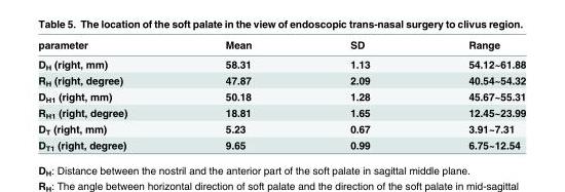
<table><thead><tr><td>parameter</td><td>Mean</td><td>SD</td><td>Range</td></tr></thead><tbody><tr><td>D<sub>H</sub> (right, mm)</td><td>58.31</td><td>1.13</td><td>54.12~61.88</td></tr><tr><td>R<sub>H</sub> (right, degree)</td><td>47.87</td><td>2.09</td><td>40.54~54.32</td></tr><tr><td>D<sub>H1</sub> (right, mm)</td><td>50.18</td><td>1.28</td><td>45.67~55.31</td></tr><tr><td>R<sub>H1</sub> (right, degree)</td><td>18.81</td><td>1.65</td><td>12.45~23.99</td></tr><tr><td>D<sub>T</sub> (right, mm)</td><td>5.23</td><td>0.67</td><td>3.91~7.31</td></tr><tr><td>D<sub>T1</sub> (right, degree)</td><td>9.65</td><td>0.99</td><td>6.75~12.54</td></tr></tbody></table>